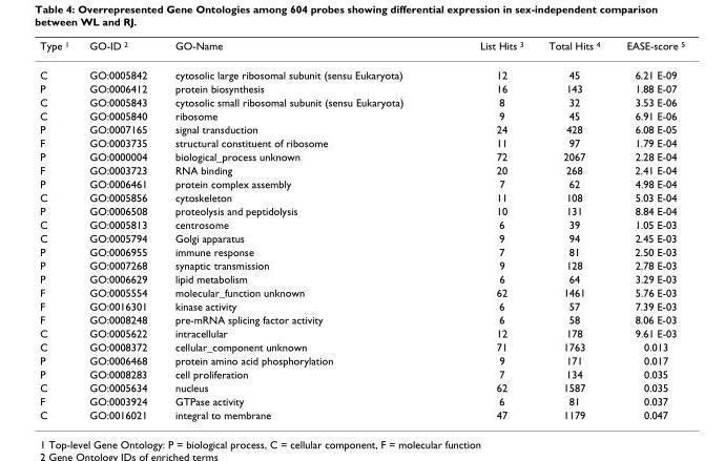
<table><thead><tr><td>Type <sup>1</sup></td><td>GO-ID <sup>2</sup></td><td>GO-Name</td><td>List Hits <sup>3</sup></td><td>Total Hits <sup>4</sup></td><td>EASE-score <sup>5</sup></td></tr></thead><tbody><tr><td>C</td><td>GO:0005842</td><td>cytosolic large ribosomal subunit (sensu Eukaryota)</td><td>12</td><td>45</td><td>6.21 E-09</td></tr><tr><td>P</td><td>GO:0006412</td><td>protein biosynthesis</td><td>16</td><td>143</td><td>1.88 E-07</td></tr><tr><td>C</td><td>GO:0005843</td><td>cytosolic small ribosomal subunit (sensu Eukaryota)</td><td>8</td><td>32</td><td>3.53 E-06</td></tr><tr><td>C</td><td>GO:0005840</td><td>ribosome</td><td>9</td><td>45</td><td>6.91 E-06</td></tr><tr><td>P</td><td>GO:0007165</td><td>signal transduction</td><td>24</td><td>428</td><td>6.08 E-05</td></tr><tr><td>F</td><td>GO:0003735</td><td>structural constituent of ribosome</td><td>11</td><td>97</td><td>1.79 E-04</td></tr><tr><td>P</td><td>GO:0000004</td><td>biological_process unknown</td><td>72</td><td>2067</td><td>2.28 E-04</td></tr><tr><td>F</td><td>GO:0003723</td><td>RNA binding</td><td>20</td><td>268</td><td>2.41 E-04</td></tr><tr><td>P</td><td>GO:0006461</td><td>protein complex assembly</td><td>7</td><td>62</td><td>4.98 E-04</td></tr><tr><td>C</td><td>GO:0005856</td><td>cytoskeleton</td><td>11</td><td>108</td><td>5.03 E-04</td></tr><tr><td>P</td><td>GO:0006508</td><td>proteolysis and peptidolysis</td><td>10</td><td>131</td><td>8.84 E-04</td></tr><tr><td>C</td><td>GO:0005813</td><td>centrosome</td><td>6</td><td>39</td><td>1.05 E-03</td></tr><tr><td>C</td><td>GO:0005794</td><td>Golgi apparatus</td><td>9</td><td>94</td><td>2.45 E-03</td></tr><tr><td>P</td><td>GO:0006955</td><td>immune response</td><td>7</td><td>81</td><td>2.50 E-03</td></tr><tr><td>P</td><td>GO:0007268</td><td>synaptic transmission</td><td>9</td><td>128</td><td>2.78 E-03</td></tr><tr><td>P</td><td>GO:0006629</td><td>lipid metabolism</td><td>6</td><td>64</td><td>3.29 E-03</td></tr><tr><td>F</td><td>GO:0005554</td><td>molecular_function unknown</td><td>62</td><td>1461</td><td>5.76 E-03</td></tr><tr><td>F</td><td>GO:0016301</td><td>kinase activity</td><td>6</td><td>57</td><td>7.39 E-03</td></tr><tr><td>F</td><td>GO:0008248</td><td>pre-mRNA splicing factor activity</td><td>6</td><td>58</td><td>8.06 E-03</td></tr><tr><td>C</td><td>GO:0005622</td><td>intracellular</td><td>12</td><td>178</td><td>9.61 E-03</td></tr><tr><td>C</td><td>GO:0008372</td><td>cellular_component unknown</td><td>71</td><td>1763</td><td>0.013</td></tr><tr><td>P</td><td>GO:0006468</td><td>protein amino acid phosphorylation</td><td>9</td><td>171</td><td>0.017</td></tr><tr><td>P</td><td>GO:0008283</td><td>cell proliferation</td><td>7</td><td>134</td><td>0.035</td></tr><tr><td>C</td><td>GO:0005634</td><td>nucleus</td><td>62</td><td>1587</td><td>0.035</td></tr><tr><td>F</td><td>GO:0003924</td><td>GTPase activity</td><td>6</td><td>81</td><td>0.037</td></tr><tr><td>C</td><td>GO:0016021</td><td>integral to membrane</td><td>47</td><td>1179</td><td>0.047</td></tr></tbody></table>